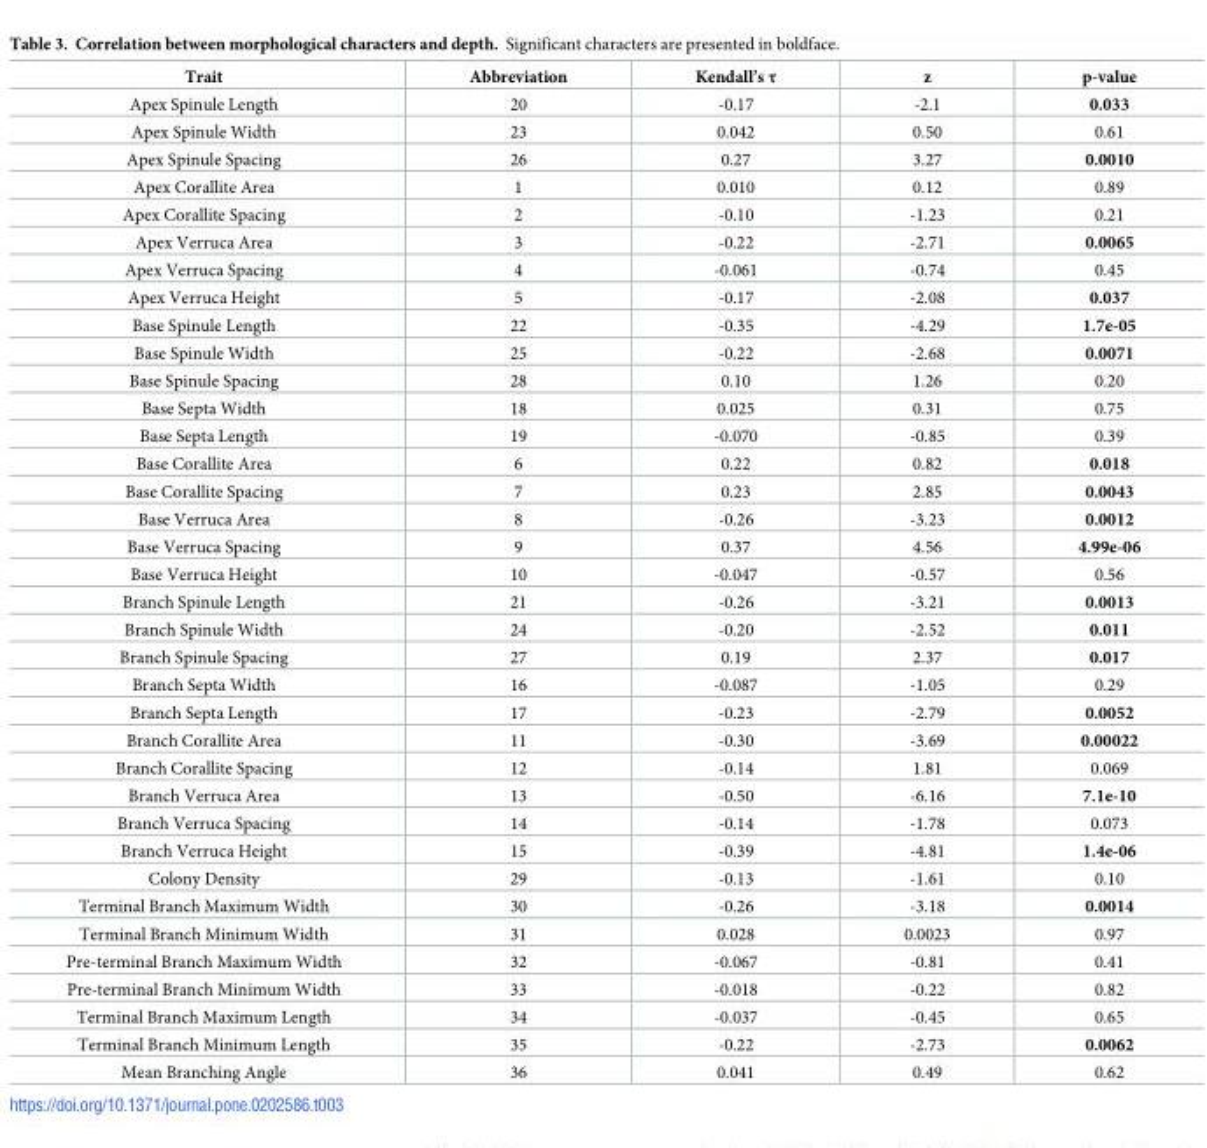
<table><thead><tr><td>Trait</td><td>Abbreviation</td><td>Kendall’s τ</td><td>z</td><td>p-value</td></tr></thead><tbody><tr><td>Apex Spinule Length</td><td>20</td><td>-0.17</td><td>-2.1</td><td>0.033</td></tr><tr><td>Apex Spinule Width</td><td>23</td><td>0.042</td><td>0.50</td><td>0.61</td></tr><tr><td>Apex Spinule Spacing</td><td>26</td><td>0.27</td><td>3.27</td><td>0.0010</td></tr><tr><td>Apex Corallite Area</td><td>1</td><td>0.010</td><td>0.12</td><td>0.89</td></tr><tr><td>Apex Corallite Spacing</td><td>2</td><td>-0.10</td><td>-1.23</td><td>0.21</td></tr><tr><td>Apex Verruca Area</td><td>3</td><td>-0.22</td><td>-2.71</td><td>0.0065</td></tr><tr><td>Apex Verruca Spacing</td><td>4</td><td>-0.061</td><td>-0.74</td><td>0.45</td></tr><tr><td>Apex Verruca Height</td><td>5</td><td>-0.17</td><td>-2.08</td><td>0.037</td></tr><tr><td>Base Spinule Length</td><td>22</td><td>-0.35</td><td>-4.29</td><td>1.7e-05</td></tr><tr><td>Base Spinule Width</td><td>25</td><td>-0.22</td><td>-2.68</td><td>0.0071</td></tr><tr><td>Base Spinule Spacing</td><td>28</td><td>0.10</td><td>1.26</td><td>0.20</td></tr><tr><td>Base Septa Width</td><td>18</td><td>0.025</td><td>0.31</td><td>0.75</td></tr><tr><td>Base Septa Length</td><td>19</td><td>-0.070</td><td>-0.85</td><td>0.39</td></tr><tr><td>Base Corallite Area</td><td>6</td><td>0.22</td><td>0.82</td><td>0.018</td></tr><tr><td>Base Corallite Spacing</td><td>7</td><td>0.23</td><td>2.85</td><td>0.0043</td></tr><tr><td>Base Verruca Area</td><td>8</td><td>-0.26</td><td>-3.23</td><td>0.0012</td></tr><tr><td>Base Verruca Spacing</td><td>9</td><td>0.37</td><td>4.56</td><td>4.99e-06</td></tr><tr><td>Base Verruca Height</td><td>10</td><td>-0.047</td><td>-0.57</td><td>0.56</td></tr><tr><td>Branch Spinule Length</td><td>21</td><td>-0.26</td><td>-3.21</td><td>0.0013</td></tr><tr><td>Branch Spinule Width</td><td>24</td><td>-0.20</td><td>-2.52</td><td>0.011</td></tr><tr><td>Branch Spinule Spacing</td><td>27</td><td>0.19</td><td>2.37</td><td>0.017</td></tr><tr><td>Branch Septa Width</td><td>16</td><td>-0.087</td><td>-1.05</td><td>0.29</td></tr><tr><td>Branch Septa Length</td><td>17</td><td>-0.23</td><td>-2.79</td><td>0.0052</td></tr><tr><td>Branch Corallite Area</td><td>11</td><td>-0.30</td><td>-3.69</td><td>0.00022</td></tr><tr><td>Branch Corallite Spacing</td><td>12</td><td>-0.14</td><td>1.81</td><td>0.069</td></tr><tr><td>Branch Verruca Area</td><td>13</td><td>-0.50</td><td>-6.16</td><td>7.1e-10</td></tr><tr><td>Branch Verruca Spacing</td><td>14</td><td>-0.14</td><td>-1.78</td><td>0.073</td></tr><tr><td>Branch Verruca Height</td><td>15</td><td>-0.39</td><td>-4.81</td><td>1.4e-06</td></tr><tr><td>Colony Density</td><td>29</td><td>-0.13</td><td>-1.61</td><td>0.10</td></tr><tr><td>Terminal Branch Maximum Width</td><td>30</td><td>-0.26</td><td>-3.18</td><td>0.0014</td></tr><tr><td>Terminal Branch Minimum Width</td><td>31</td><td>0.028</td><td>0.0023</td><td>0.97</td></tr><tr><td>Pre-terminal Branch Maximum Width</td><td>32</td><td>-0.067</td><td>-0.81</td><td>0.41</td></tr><tr><td>Pre-terminal Branch Minimum Width</td><td>33</td><td>-0.018</td><td>-0.22</td><td>0.82</td></tr><tr><td>Terminal Branch Maximum Length</td><td>34</td><td>-0.037</td><td>-0.45</td><td>0.65</td></tr><tr><td>Terminal Branch Minimum Length</td><td>35</td><td>-0.22</td><td>-2.73</td><td>0.0062</td></tr><tr><td>Mean Branching Angle</td><td>36</td><td>0.041</td><td>0.49</td><td>0.62</td></tr></tbody></table>